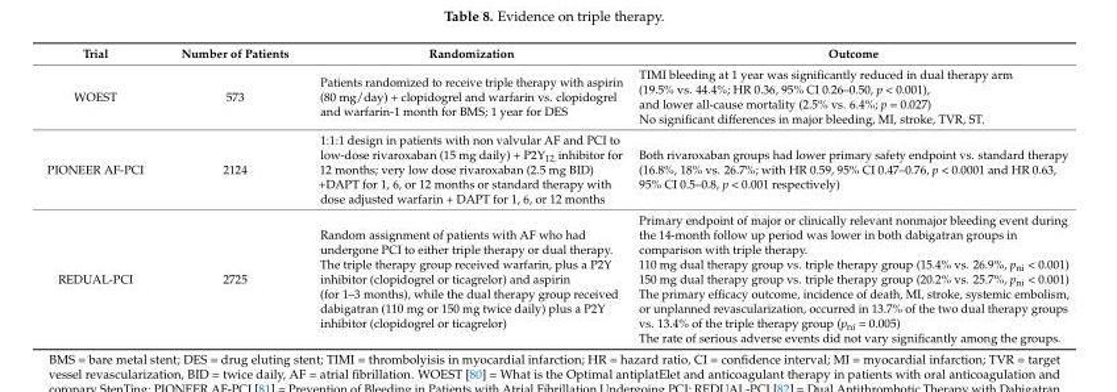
<table><thead><tr><td>Trial</td><td>Number of Patients</td><td>Randomization</td><td>Outcome</td></tr></thead><tbody><tr><td>WOEST</td><td>573</td><td>Patients randomized to receive triple therapy with aspirin (80 mg/day) + clopidogrel and warfarin vs. clopidogrel and warfarin-1 month for BMS; 1 year for DES</td><td>TIMI bleeding at 1 year was significantly reduced in dual therapy arm (19.5% vs. 44.4%; HR 0.36, 95% CI 0.26–0.50, p &lt; 0.001), and lower all-cause mortality (2.5% vs. 6.4%; p = 0.027) No significant differences in major bleeding, MI, stroke, TVR, ST.</td></tr><tr><td>PIONEER AF-PCI</td><td>2124</td><td>1:1:1 design in patients with non valvular AF and PCI to low-dose rivaroxaban (15 mg daily) + P2Y<sub>12</sub> inhibitor for 12 months; very low dose rivaroxaban (2.5 mg BID) +DAPT for 1, 6, or 12 months or standard therapy with dose adjusted warfarin + DAPT for 1, 6, or 12 months</td><td>Both rivaroxaban groups had lower primary safety endpoint vs. standard therapy (16.8%, 18% vs. 26.7%; with HR 0.59, 95% CI 0.47–0.76, p &lt; 0.0001 and HR 0.63, 95% CI 0.5–0.8, p &lt; 0.001 respectively)</td></tr><tr><td>REDUAL-PCI</td><td>2725</td><td>Random assignment of patients with AF who had undergone PCI to either triple therapy or dual therapy. The triple therapy group received warfarin, plus a P2Y inhibitor (clopidogrel or ticagrelor) and aspirin (for 1–3 months), while the dual therapy group received dabigatran (110 mg or 150 mg twice daily) plus a P2Y inhibitor (clopidogrel or ticagrelor)</td><td>Primary endpoint of major or clinically relevant nonmajor bleeding event during the 14-month follow up period was lower in both dabigatran groups in comparison with triple therapy. 110 mg dual therapy group vs. triple therapy group (15.4% vs. 26.9%, p<sub>ni</sub> &lt; 0.001) 150 mg dual therapy group vs. triple therapy group (20.2% vs. 25.7%, p<sub>ni</sub> &lt; 0.001) The primary efficacy outcome, incidence of death, MI, stroke, systemic embolism, or unplanned revascularization, occurred in 13.7% of the two dual therapy groups vs. 13.4% of the triple therapy group (p<sub>ni</sub> = 0.005) The rate of serious adverse events did not vary significantly among the groups.</td></tr></tbody></table>